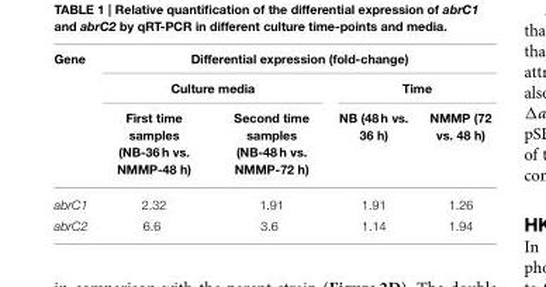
<table><thead><tr><td rowspan="3">Gene</td><td colspan="4">Differential expression (fold-change)</td></tr><tr><td colspan="2">Culture media</td><td colspan="2">Time</td></tr><tr><td>First time samples (NB-36 h vs. NMMP-48 h)</td><td>Second time samples (NB-48 h vs. NMMP-72 h)</td><td>NB (48 h vs. 36 h)</td><td>NMMP (72 vs. 48 h)</td></tr></thead><tbody><tr><td>abrC1</td><td>2.32</td><td>1.91</td><td>1.91</td><td>1.26</td></tr><tr><td>abrC2</td><td>6.6</td><td>3.6</td><td>1.14</td><td>1.94</td></tr></tbody></table>